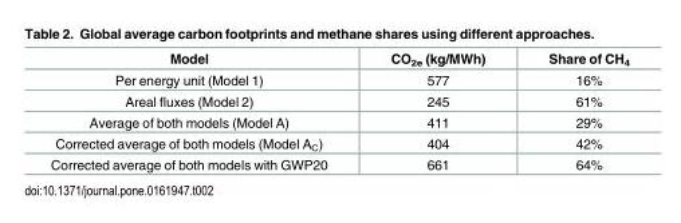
<table><thead><tr><td>Model</td><td>CO<sub>2e</sub> (kg/MWh)</td><td>Share of CH<sub>4</sub></td></tr></thead><tbody><tr><td>Per energy unit (Model 1)</td><td>577</td><td>16%</td></tr><tr><td>Areal fluxes (Model 2)</td><td>245</td><td>61%</td></tr><tr><td>Average of both models (Model A)</td><td>411</td><td>29%</td></tr><tr><td>Corrected average of both models (Model A<sub>C</sub>)</td><td>404</td><td>42%</td></tr><tr><td>Corrected average of both models with GWP20</td><td>661</td><td>64%</td></tr></tbody></table>